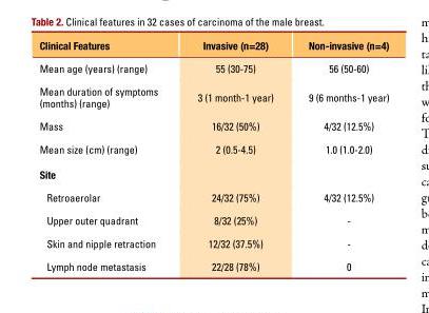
<table><thead><tr><td>Clinical Features</td><td>Invasive (n=28)</td><td>Non-invasive (n=4)</td></tr></thead><tbody><tr><td>Mean age (years) (range)</td><td>55 (30-75)</td><td>56 (50-60)</td></tr><tr><td>Mean duration of symptoms (months) (range)</td><td>3 (1 month-1 year)</td><td>9 (6 months-1 year)</td></tr><tr><td>Mass</td><td>16/32 (50%)</td><td>4/32 (12.5%)</td></tr><tr><td>Mean size (cm) (range)</td><td>2 (0.5-4.5)</td><td>1.0 (1.0-2.0)</td></tr><tr><td colspan="3">Site</td></tr><tr><td>retroaerolar</td><td>24/32 (75%)</td><td>4/32 (12.5%)</td></tr><tr><td>Upper outer quadrant</td><td>8/32 (25%)</td><td>-</td></tr><tr><td>Skin and nipple retraction</td><td>12/32 (37.5%)</td><td>-</td></tr><tr><td>lymph node metastasis</td><td>22/28 (78%)</td><td>0</td></tr></tbody></table>